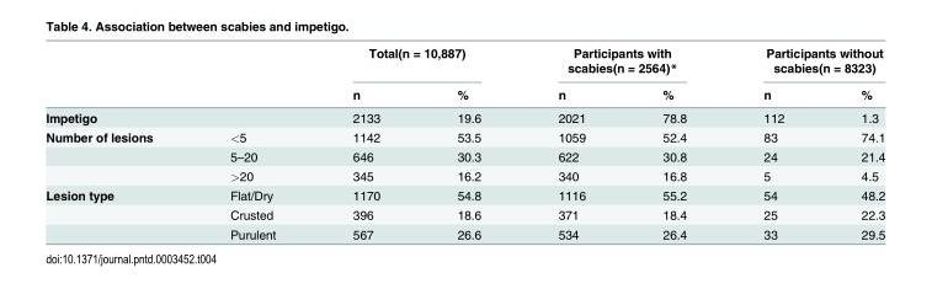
<table><thead><tr><td rowspan="2"></td><td rowspan="2"></td><td colspan="2">Total(n = 10,887)</td><td colspan="2">Participants with scabies(n = 2564)*</td><td colspan="2">Participants without scabies(n = 8323)</td></tr><tr><td>n</td><td>%</td><td>n</td><td>%</td><td>n</td><td>%</td></tr></thead><tbody><tr><td>Impetigo</td><td></td><td>2133</td><td>19.6</td><td>2021</td><td>78.8</td><td>112</td><td>1.3</td></tr><tr><td rowspan="3">Number of lesions</td><td>&lt;5</td><td>1142</td><td>53.5</td><td>1059</td><td>52.4</td><td>83</td><td>74.1</td></tr><tr><td>5–20</td><td>646</td><td>30.3</td><td>622</td><td>30.8</td><td>24</td><td>21.4</td></tr><tr><td>&gt;20</td><td>345</td><td>16.2</td><td>340</td><td>16.8</td><td>5</td><td>4.5</td></tr><tr><td rowspan="3">Lesion type</td><td>Flat/Dry</td><td>1170</td><td>54.8</td><td>1116</td><td>55.2</td><td>54</td><td>48.2</td></tr><tr><td>Crusted</td><td>396</td><td>18.6</td><td>371</td><td>18.4</td><td>25</td><td>22.3</td></tr><tr><td>Purulent</td><td>567</td><td>26.6</td><td>534</td><td>26.4</td><td>33</td><td>29.5</td></tr></tbody></table>